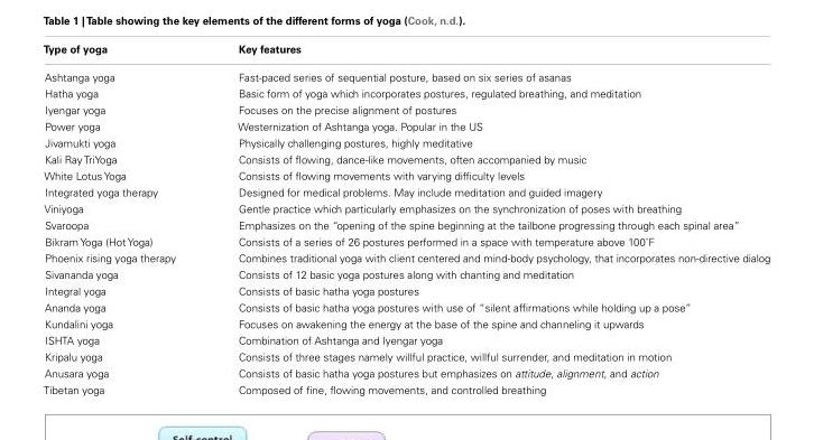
<table><thead><tr><td>Type of yoga</td><td>Key features</td></tr></thead><tbody><tr><td>Ashtanga yoga</td><td>Fast-paced series of sequential posture, based on six series of asanas</td></tr><tr><td>Hatha yoga</td><td>Basic form of yoga which incorporates postures, regulated breathing, and meditation</td></tr><tr><td>Iyengar yoga</td><td>Focuses on the precise alignment of postures</td></tr><tr><td>Power yoga</td><td>Westernization of Ashtanga yoga. Popular in the US</td></tr><tr><td>Jivamukti yoga</td><td>Physically challenging postures, highly meditative</td></tr><tr><td>Kali Ray TriYoga</td><td>Consists of flowing, dance-like movements, often accompanied by music</td></tr><tr><td>White Lotus Yoga</td><td>Consists of flowing movements with varying difficulty levels</td></tr><tr><td>Integrated yoga therapy</td><td>Designed for medical problems. May include meditation and guided imagery</td></tr><tr><td>Viniyoga</td><td>Gentle practice which particularly emphasizes on the synchronization of poses with breathing</td></tr><tr><td>Svaroopa</td><td>Emphasizes on the “opening of the spine beginning at the tailbone progressing through each spinal area”</td></tr><tr><td>Bikram Yoga (Hot Yoga)</td><td>Consists of a series of 26 postures performed in a space with temperature above 100˚F</td></tr><tr><td>Phoenix rising yoga therapy</td><td>Combines traditional yoga with client centered and mind-body psychology, that incorporates non-directive dialog</td></tr><tr><td>Sivananda yoga</td><td>Consists of 12 basic yoga postures along with chanting and meditation</td></tr><tr><td>Integral yoga</td><td>Consists of basic hatha yoga postures</td></tr><tr><td>Ananda yoga</td><td>Consists of basic hatha yoga postures with use of “silent affirmations while holding up a pose”</td></tr><tr><td>Kundalini yoga</td><td>Focuses on awakening the energy at the base of the spine and channeling it upwards</td></tr><tr><td>ISHTA yoga</td><td>Combination of Ashtanga and Iyengar yoga</td></tr><tr><td>Kripalu yoga</td><td>Consists of three stages namely willful practice, willful surrender, and meditation in motion</td></tr><tr><td>Anusara yoga</td><td>Consists of basic hatha yoga postures but emphasizes on attitude, alignment, and action</td></tr><tr><td>Tibetan yoga</td><td>Composed of fine, flowing movements, and controlled breathing</td></tr></tbody></table>